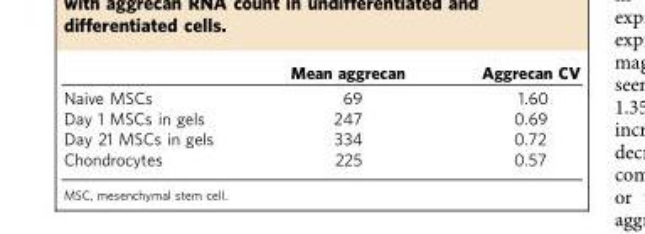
<table><thead><tr><td></td><td>Mean aggrecan</td><td>Aggrecan CV</td></tr></thead><tbody><tr><td>Naive MSCs</td><td>69</td><td>1.60</td></tr><tr><td>Day 1 MSCs in gels</td><td>247</td><td>0.69</td></tr><tr><td>Day 21 MSCs in gels</td><td>334</td><td>0.72</td></tr><tr><td>Chondrocytes</td><td>225</td><td>0.57</td></tr></tbody></table>